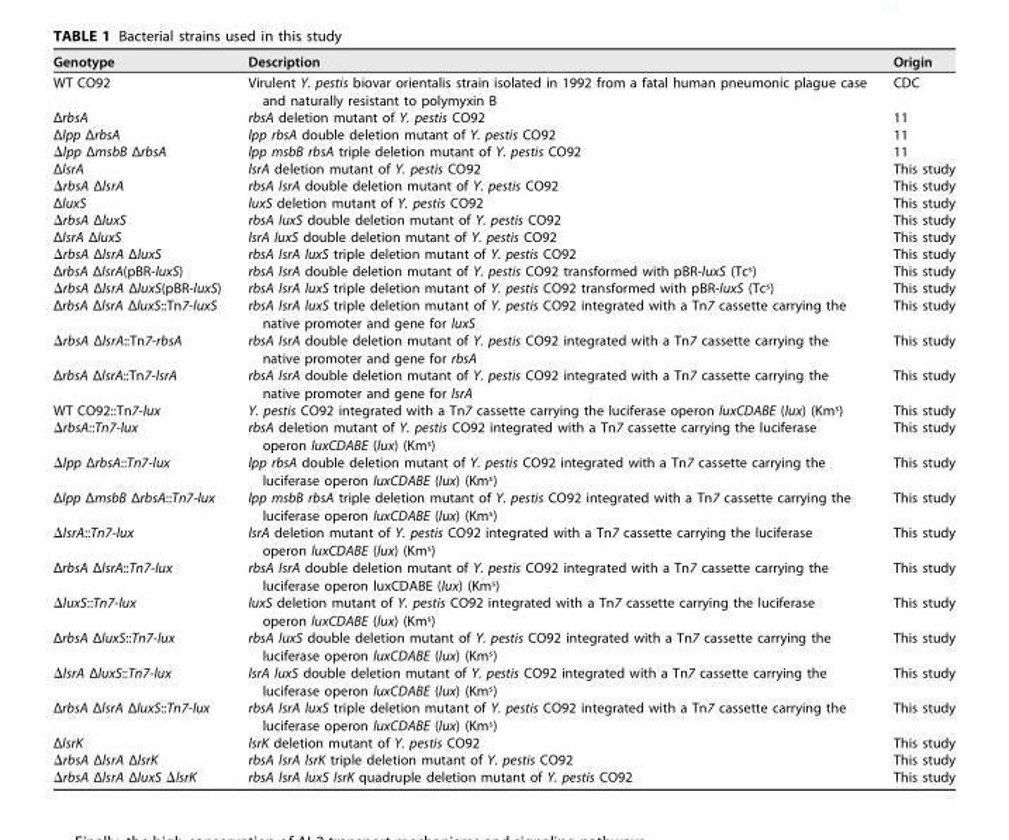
<table><thead><tr><td>Genotype</td><td>Description</td><td>Origin</td></tr></thead><tbody><tr><td>WT CO92</td><td>Virulent Y. pestis biovar orientalis strain isolated in 1992 from a fatal human pneumonic plague case and naturally resistant to polymyxin B</td><td>CDC</td></tr><tr><td>ΔrbsA</td><td>rbsA deletion mutant of Y. pestis CO92</td><td>11</td></tr><tr><td>Δlpp ΔrbsA</td><td>lpp rbsA double deletion mutant of Y. pestis CO92</td><td>11</td></tr><tr><td>Δlpp ΔmsbB ΔrbsA</td><td>lpp msbB rbsA triple deletion mutant of Y. pestis CO92</td><td>11</td></tr><tr><td>ΔlsrA</td><td>lsrA deletion mutant of Y. pestis CO92</td><td>This study</td></tr><tr><td>ΔrbsA ΔlsrA</td><td>rbsA lsrA double deletion mutant of Y. pestis CO92</td><td>This study</td></tr><tr><td>ΔluxS</td><td>luxS deletion mutant of Y. pestis CO92</td><td>This study</td></tr><tr><td>ΔrbsA ΔluxS</td><td>rbsA luxS double deletion mutant of Y. pestis CO92</td><td>This study</td></tr><tr><td>ΔlsrA ΔluxS</td><td>lsrA luxS double deletion mutant of Y. pestis CO92</td><td>This study</td></tr><tr><td>ΔrbsA ΔlsrA ΔluxS</td><td>rbsA lsrA luxS triple deletion mutant of Y. pestis CO92</td><td>This study</td></tr><tr><td>ΔrbsA ΔlsrA(pBR-luxS)</td><td>rbsA lsrA double deletion mutant of Y. pestis CO92 transformed with pBR-luxS (Tc<sup>s</sup>)</td><td>This study</td></tr><tr><td>ΔrbsA ΔlsrA ΔluxS(pBR-luxS)</td><td>rbsA lsrA luxS triple deletion mutant of Y. pestis CO92 transformed with pBR-luxS (Tc<sup>s</sup>)</td><td>This study</td></tr><tr><td>ΔrbsA ΔlsrA ΔluxS::Tn7-luxS</td><td>rbsA lsrA luxS triple deletion mutant of Y. pestis CO92 integrated with a Tn7 cassette carrying the native promoter and gene for luxS</td><td>This study</td></tr><tr><td>ΔrbsA ΔlsrA::Tn7-rbsA</td><td>rbsA lsrA double deletion mutant of Y. pestis CO92 integrated with a Tn7 cassette carrying the native promoter and gene for rbsA</td><td>This study</td></tr><tr><td>ΔrbsA ΔlsrA::Tn7-lsrA</td><td>rbsA lsrA double deletion mutant of Y. pestis CO92 integrated with a Tn7 cassette carrying the native promoter and gene for lsrA</td><td>This study</td></tr><tr><td>WT CO92::Tn7-lux</td><td>Y. pestis CO92 integrated with a Tn7 cassette carrying the luciferase operon luxCDABE (lux) (Km<sup>s</sup>)</td><td>This study</td></tr><tr><td>ΔrbsA::Tn7-lux</td><td>rbsA deletion mutant of Y. pestis CO92 integrated with a Tn7 cassette carrying the luciferase operon luxCDABE (lux) (Km<sup>s</sup>)</td><td>This study</td></tr><tr><td>Δlpp ΔrbsA::Tn7-lux</td><td>lpp rbsA double deletion mutant of Y. pestis CO92 integrated with a Tn7 cassette carrying the luciferase operon luxCDABE (lux) (Km<sup>s</sup>)</td><td>This study</td></tr><tr><td>Δlpp ΔmsbB ΔrbsA::Tn7-lux</td><td>lpp msbB rbsA triple deletion mutant of Y. pestis CO92 integrated with a Tn7 cassette carrying the luciferase operon luxCDABE (lux) (Km<sup>s</sup>)</td><td>This study</td></tr><tr><td>ΔlsrA::Tn7-lux</td><td>lsrA deletion mutant of Y. pestis CO92 integrated with a Tn7 cassette carrying the luciferase operon luxCDABE (lux) (Km<sup>s</sup>)</td><td>This study</td></tr><tr><td>ΔrbsA ΔlsrA::Tn7-lux</td><td>rbsA lsrA double deletion mutant of Y. pestis CO92 integrated with a Tn7 cassette carrying the luciferase operon luxCDABE (lux) (Km<sup>s</sup>)</td><td>This study</td></tr><tr><td>ΔluxS::Tn7-lux</td><td>luxS deletion mutant of Y. pestis CO92 integrated with a Tn7 cassette carrying the luciferase operon luxCDABE (lux) (Km<sup>s</sup>)</td><td>This study</td></tr><tr><td>ΔrbsA ΔluxS::Tn7-lux</td><td>rbsA luxS double deletion mutant of Y. pestis CO92 integrated with a Tn7 cassette carrying the luciferase operon luxCDABE (lux) (Km<sup>s</sup>)</td><td>This study</td></tr><tr><td>ΔlsrA ΔluxS::Tn7-lux</td><td>lsrA luxS double deletion mutant of Y. pestis CO92 integrated with a Tn7 cassette carrying the luciferase operon luxCDABE (lux) (Km<sup>s</sup>)</td><td>This study</td></tr><tr><td>ΔrbsA ΔlsrA ΔluxS::Tn7-lux</td><td>rbsA lsrA luxS triple deletion mutant of Y. pestis CO92 integrated with a Tn7 cassette carrying the luciferase operon luxCDABE (lux) (Km<sup>s</sup>)</td><td>This study</td></tr><tr><td>ΔlsrK</td><td>lsrK deletion mutant of Y. pestis CO92</td><td>This study</td></tr><tr><td>ΔrbsA ΔlsrA ΔlsrK</td><td>rbsA lsrA lsrK triple deletion mutant of Y. pestis CO92</td><td>This study</td></tr><tr><td>ΔrbsA ΔlsrA ΔluxS ΔlsrK</td><td>rbsA lsrA luxS lsrK quadruple deletion mutant of Y. pestis CO92</td><td>This study</td></tr></tbody></table>